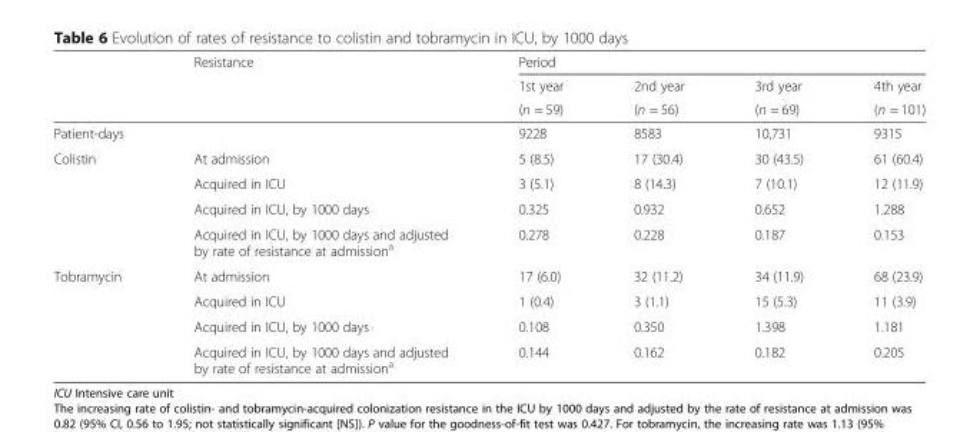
<table><thead><tr><td rowspan="3"></td><td rowspan="3">Resistance</td><td colspan="4">Period</td></tr><tr><td rowspan="2">1st year (n = 59)</td><td rowspan="2">2nd year (n = 56)</td><td rowspan="2">3rd year (n = 69)</td><td rowspan="2">4th year (n = 101)</td></tr><tr></tr></thead><tbody><tr><td>Patient-days</td><td></td><td>9228</td><td>8583</td><td>10,731</td><td>9315</td></tr><tr><td rowspan="4">Colistin</td><td>At admission</td><td>5 (8.5)</td><td>17 (30.4)</td><td>30 (43.5)</td><td>61 (60.4)</td></tr><tr><td>Acquired in ICU</td><td>3 (5.1)</td><td>8 (14.3)</td><td>7 (10.1)</td><td>12 (11.9)</td></tr><tr><td>Acquired in ICU, by 1000 days</td><td>0.325</td><td>0.932</td><td>0.652</td><td>1.288</td></tr><tr><td>Acquired in ICU, by 1000 days and adjusted by rate of resistance at admission<sup>a</sup></td><td>0.278</td><td>0.228</td><td>0.187</td><td>0.153</td></tr><tr><td rowspan="4">Tobramycin</td><td>At admission</td><td>17 (6.0)</td><td>32 (11.2)</td><td>34 (11.9)</td><td>68 (23.9)</td></tr><tr><td>Acquired in ICU</td><td>1 (0.4)</td><td>3 (1.1)</td><td>15 (5.3)</td><td>11 (3.9)</td></tr><tr><td>Acquired in ICU, by 1000 days</td><td>0.108</td><td>0.350</td><td>1.398</td><td>1.181</td></tr><tr><td>Acquired in ICU, by 1000 days and adjusted by rate of resistance at admission<sup>a</sup></td><td>0.144</td><td>0.162</td><td>0.182</td><td>0.205</td></tr></tbody></table>